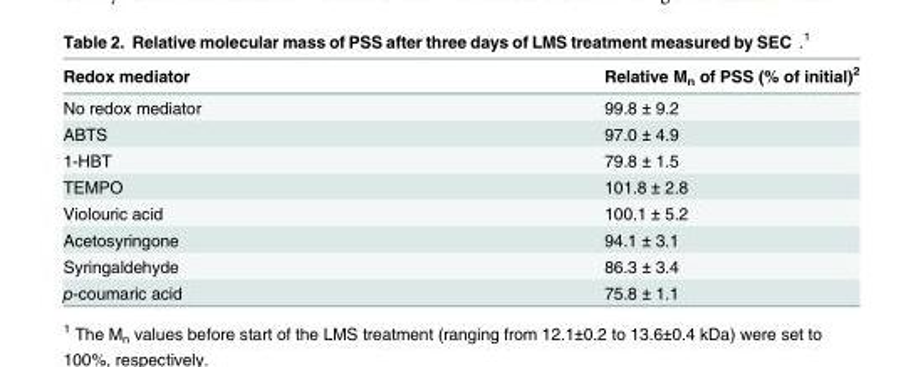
<table><thead><tr><td>Redox mediator</td><td>Relative M<sub>n</sub> of PSS (% of initial)<sup>2</sup></td></tr></thead><tbody><tr><td>No redox mediator</td><td>99.8 ± 9.2</td></tr><tr><td>ABTS</td><td>97.0 ± 4.9</td></tr><tr><td>1-HBT</td><td>79.8 ± 1.5</td></tr><tr><td>TEMPO</td><td>101.8 ± 2.8</td></tr><tr><td>Violouric acid</td><td>100.1 ± 5.2</td></tr><tr><td>Acetosyringone</td><td>94.1 ± 3.1</td></tr><tr><td>Syringaldehyde</td><td>86.3 ± 3.4</td></tr><tr><td>p-coumaric acid</td><td>75.8 ± 1.1</td></tr></tbody></table>